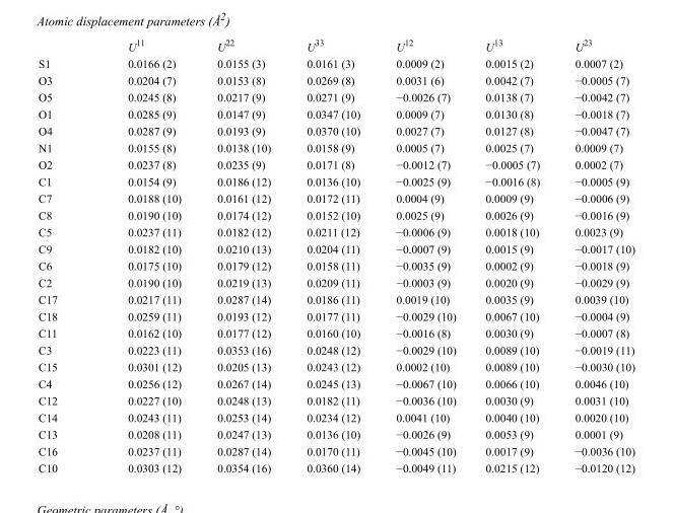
<table><thead><tr><td></td><td>U<sup>11</sup></td><td>U<sup>22</sup></td><td>U<sup>33</sup></td><td>U<sup>12</sup></td><td>U<sup>13</sup></td><td>U<sup>23</sup></td></tr></thead><tbody><tr><td>S1</td><td>0.0166 (2)</td><td>0.0155 (3)</td><td>0.0161 (3)</td><td>0.0009 (2)</td><td>0.0015 (2)</td><td>0.0007 (2)</td></tr><tr><td>O3</td><td>0.0204 (7)</td><td>0.0153 (8)</td><td>0.0269 (8)</td><td>0.0031 (6)</td><td>0.0042 (7)</td><td>−0.0005 (7)</td></tr><tr><td>O5</td><td>0.0245 (8)</td><td>0.0217 (9)</td><td>0.0271 (9)</td><td>−0.0026 (7)</td><td>0.0138 (7)</td><td>−0.0042 (7)</td></tr><tr><td>O1</td><td>0.0285 (9)</td><td>0.0147 (9)</td><td>0.0347 (10)</td><td>0.0009 (7)</td><td>0.0130 (8)</td><td>−0.0018 (7)</td></tr><tr><td>O4</td><td>0.0287 (9)</td><td>0.0193 (9)</td><td>0.0370 (10)</td><td>0.0027 (7)</td><td>0.0127 (8)</td><td>−0.0047 (7)</td></tr><tr><td>N1</td><td>0.0155 (8)</td><td>0.0138 (10)</td><td>0.0158 (9)</td><td>0.0005 (7)</td><td>0.0025 (7)</td><td>0.0009 (7)</td></tr><tr><td>O2</td><td>0.0237 (8)</td><td>0.0235 (9)</td><td>0.0171 (8)</td><td>−0.0012 (7)</td><td>−0.0005 (7)</td><td>0.0002 (7)</td></tr><tr><td>C1</td><td>0.0154 (9)</td><td>0.0186 (12)</td><td>0.0136 (10)</td><td>−0.0025 (9)</td><td>−0.0016 (8)</td><td>−0.0005 (9)</td></tr><tr><td>C7</td><td>0.0188 (10)</td><td>0.0161 (12)</td><td>0.0172 (11)</td><td>0.0004 (9)</td><td>0.0009 (9)</td><td>−0.0006 (9)</td></tr><tr><td>C8</td><td>0.0190 (10)</td><td>0.0174 (12)</td><td>0.0152 (10)</td><td>0.0025 (9)</td><td>0.0026 (9)</td><td>−0.0016 (9)</td></tr><tr><td>C5</td><td>0.0237 (11)</td><td>0.0182 (12)</td><td>0.0211 (12)</td><td>−0.0006 (9)</td><td>0.0018 (10)</td><td>0.0023 (9)</td></tr><tr><td>C9</td><td>0.0182 (10)</td><td>0.0210 (13)</td><td>0.0204 (11)</td><td>−0.0007 (9)</td><td>0.0015 (9)</td><td>−0.0017 (10)</td></tr><tr><td>C6</td><td>0.0175 (10)</td><td>0.0179 (12)</td><td>0.0158 (11)</td><td>−0.0035 (9)</td><td>0.0002 (9)</td><td>−0.0018 (9)</td></tr><tr><td>C2</td><td>0.0190 (10)</td><td>0.0219 (13)</td><td>0.0209 (11)</td><td>−0.0003 (9)</td><td>0.0020 (9)</td><td>−0.0029 (9)</td></tr><tr><td>C17</td><td>0.0217 (11)</td><td>0.0287 (14)</td><td>0.0186 (11)</td><td>0.0019 (10)</td><td>0.0035 (9)</td><td>0.0039 (10)</td></tr><tr><td>C18</td><td>0.0259 (11)</td><td>0.0193 (12)</td><td>0.0177 (11)</td><td>−0.0029 (10)</td><td>0.0067 (10)</td><td>−0.0004 (9)</td></tr><tr><td>C11</td><td>0.0162 (10)</td><td>0.0177 (12)</td><td>0.0160 (10)</td><td>−0.0016 (8)</td><td>0.0030 (9)</td><td>−0.0007 (8)</td></tr><tr><td>C3</td><td>0.0223 (11)</td><td>0.0353 (16)</td><td>0.0248 (12)</td><td>−0.0029 (10)</td><td>0.0089 (10)</td><td>−0.0019 (11)</td></tr><tr><td>C15</td><td>0.0301 (12)</td><td>0.0205 (13)</td><td>0.0243 (12)</td><td>0.0002 (10)</td><td>0.0089 (10)</td><td>−0.0030 (10)</td></tr><tr><td>C4</td><td>0.0256 (12)</td><td>0.0267 (14)</td><td>0.0245 (13)</td><td>−0.0067 (10)</td><td>0.0066 (10)</td><td>0.0046 (10)</td></tr><tr><td>C12</td><td>0.0227 (10)</td><td>0.0248 (13)</td><td>0.0182 (11)</td><td>−0.0036 (10)</td><td>0.0030 (9)</td><td>0.0031 (10)</td></tr><tr><td>C14</td><td>0.0243 (11)</td><td>0.0253 (14)</td><td>0.0234 (12)</td><td>0.0041 (10)</td><td>0.0040 (10)</td><td>0.0020 (10)</td></tr><tr><td>C13</td><td>0.0208 (11)</td><td>0.0247 (13)</td><td>0.0136 (10)</td><td>−0.0026 (9)</td><td>0.0053 (9)</td><td>0.0001 (9)</td></tr><tr><td>C16</td><td>0.0237 (11)</td><td>0.0287 (14)</td><td>0.0170 (11)</td><td>−0.0045 (10)</td><td>0.0017 (9)</td><td>−0.0036 (10)</td></tr><tr><td>C10</td><td>0.0303 (12)</td><td>0.0354 (16)</td><td>0.0360 (14)</td><td>−0.0049 (11)</td><td>0.0215 (12)</td><td>−0.0120 (12)</td></tr></tbody></table>